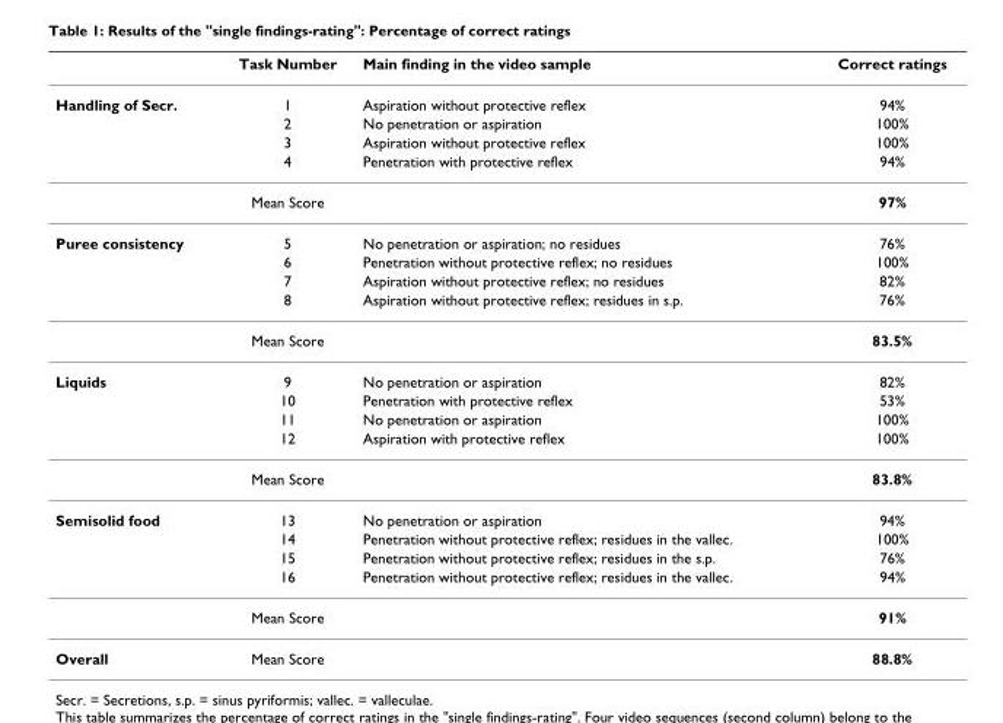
<table><thead><tr><td></td><td>Task Number</td><td>Main finding in the video sample</td><td>Correct ratings</td></tr></thead><tbody><tr><td rowspan="5">Handling of Secr.</td><td>1</td><td>Aspiration without protective reflex</td><td>94%</td></tr><tr><td>2</td><td>No penetration or aspiration</td><td>100%</td></tr><tr><td>3</td><td>Aspiration without protective reflex</td><td>100%</td></tr><tr><td>4</td><td>Penetration with protective reflex</td><td>94%</td></tr><tr><td>Mean Score</td><td></td><td>97%</td></tr><tr><td rowspan="5">Puree consistency</td><td>5</td><td>No penetration or aspiration; no residues</td><td>76%</td></tr><tr><td>6</td><td>Penetration without protective reflex; no residues</td><td>100%</td></tr><tr><td>7</td><td>Aspiration without protective reflex; no residues</td><td>82%</td></tr><tr><td>8</td><td>Aspiration without protective reflex; residues in s.p.</td><td>76%</td></tr><tr><td>Mean Score</td><td></td><td>83.5%</td></tr><tr><td rowspan="5">Liquids</td><td>9</td><td>No penetration or aspiration</td><td>82%</td></tr><tr><td>10</td><td>Penetration with protective reflex</td><td>53%</td></tr><tr><td>11</td><td>No penetration or aspiration</td><td>100%</td></tr><tr><td>12</td><td>Aspiration with protective reflex</td><td>100%</td></tr><tr><td>Mean Score</td><td></td><td>83.8%</td></tr><tr><td rowspan="5">Semisolid food</td><td>13</td><td>No penetration or aspiration</td><td>94%</td></tr><tr><td>14</td><td>Penetration without protective reflex; residues in the vallec.</td><td>100%</td></tr><tr><td>15</td><td>Penetration without protective reflex; residues in the s.p.</td><td>76%</td></tr><tr><td>16</td><td>Penetration without protective reflex; residues in the vallec.</td><td>94%</td></tr><tr><td>Mean Score</td><td></td><td>91%</td></tr><tr><td>Overall</td><td>Mean Score</td><td></td><td>88.8%</td></tr></tbody></table>